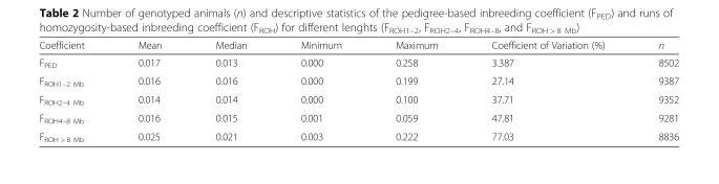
<table><thead><tr><td>Coefficient</td><td>Mean</td><td>Median</td><td>Minimum</td><td>Maximum</td><td>Coefficient of Variation (%)</td><td>n</td></tr></thead><tbody><tr><td>F<sub>PED</sub></td><td>0.017</td><td>0.013</td><td>0.000</td><td>0.258</td><td>3.387</td><td>8502</td></tr><tr><td>F<sub>ROH1–2 Mb</sub></td><td>0.016</td><td>0.016</td><td>0.000</td><td>0.199</td><td>27.14</td><td>9387</td></tr><tr><td>F<sub>ROH2–4 Mb</sub></td><td>0.014</td><td>0.014</td><td>0.000</td><td>0.100</td><td>37.71</td><td>9352</td></tr><tr><td>F<sub>ROH4–8 Mb</sub></td><td>0.016</td><td>0.015</td><td>0.001</td><td>0.059</td><td>47.81</td><td>9281</td></tr><tr><td>F<sub>ROH &gt; 8 Mb</sub></td><td>0.025</td><td>0.021</td><td>0.003</td><td>0.222</td><td>77.03</td><td>8836</td></tr></tbody></table>